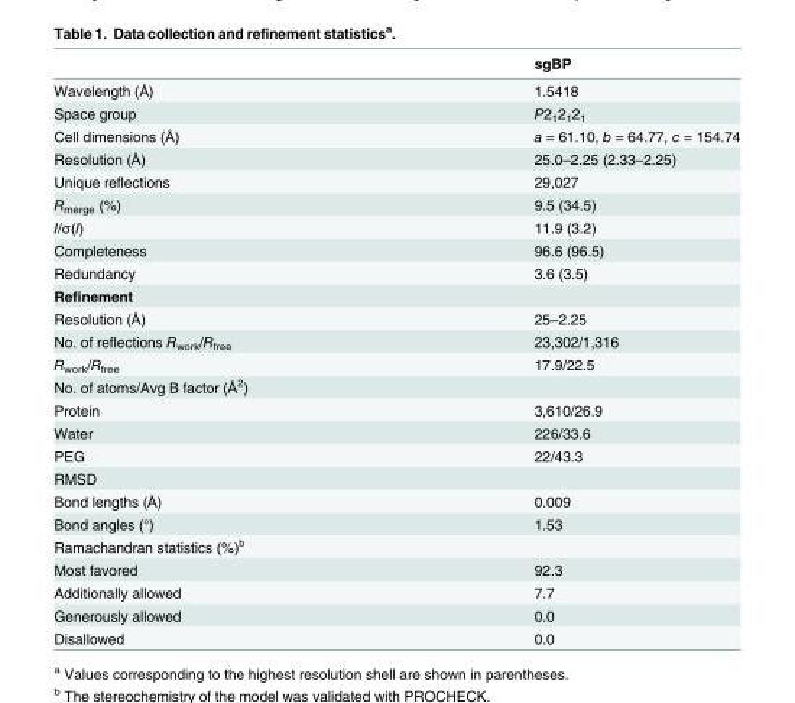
<table><thead><tr><td></td><td>sgBP</td></tr></thead><tbody><tr><td>Wavelength (Å)</td><td>1.5418</td></tr><tr><td>Space group</td><td>P2<sub>1</sub>2<sub>1</sub>2<sub>1</sub></td></tr><tr><td>Cell dimensions (Å)</td><td>a = 61.10, b = 64.77, c = 154.74</td></tr><tr><td>Resolution (Å)</td><td>25.0–2.25 (2.33–2.25)</td></tr><tr><td>Unique reflections</td><td>29,027</td></tr><tr><td>R<sub>merge</sub> (%)</td><td>9.5 (34.5)</td></tr><tr><td>I/σ(I)</td><td>11.9 (3.2)</td></tr><tr><td>Completeness</td><td>96.6 (96.5)</td></tr><tr><td>Redundancy</td><td>3.6 (3.5)</td></tr><tr><td colspan="2">Refinement</td></tr><tr><td>Resolution (Å)</td><td>25–2.25</td></tr><tr><td>No. of reflections R<sub>work</sub>/R<sub>free</sub></td><td>23,302/1,316</td></tr><tr><td>R<sub>work</sub>/R<sub>free</sub></td><td>17.9/22.5</td></tr><tr><td colspan="2">No. of atoms/Avg B factor (Å<sup>2</sup>)</td></tr><tr><td>Protein</td><td>3,610/26.9</td></tr><tr><td>Water</td><td>226/33.6</td></tr><tr><td>PEG</td><td>22/43.3</td></tr><tr><td colspan="2">RMSD</td></tr><tr><td>Bond lengths (Å)</td><td>0.009</td></tr><tr><td>Bond angles (°)</td><td>1.53</td></tr><tr><td colspan="2">Ramachandran statistics (%)<sup>b</sup></td></tr><tr><td>Most favored</td><td>92.3</td></tr><tr><td>Additionally allowed</td><td>7.7</td></tr><tr><td>Generously allowed</td><td>0.0</td></tr><tr><td>Disallowed</td><td>0.0</td></tr></tbody></table>